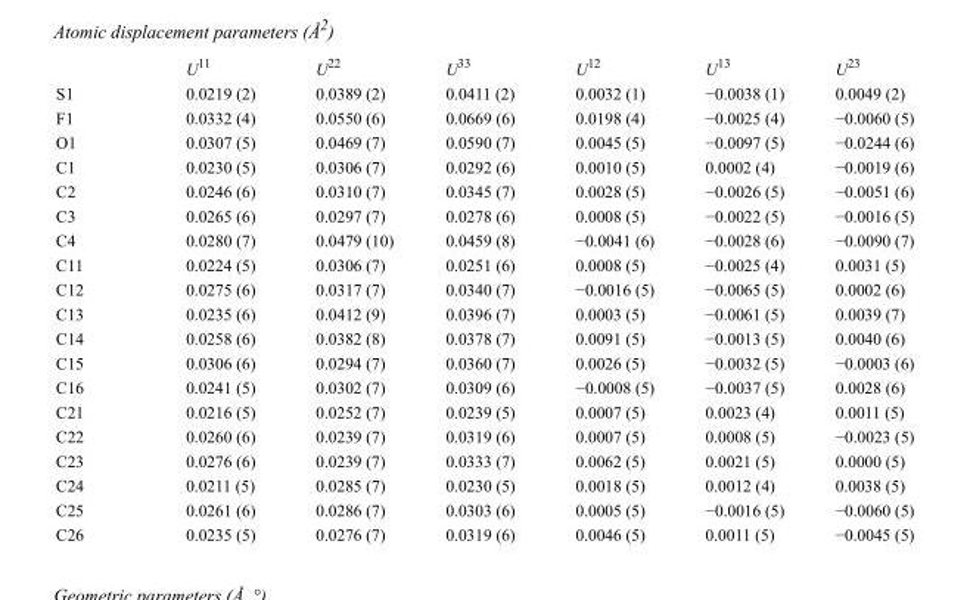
<table><thead><tr><td></td><td>U<sup>11</sup></td><td>U<sup>22</sup></td><td>U<sup>33</sup></td><td>U<sup>12</sup></td><td>U<sup>13</sup></td><td>U<sup>23</sup></td></tr></thead><tbody><tr><td>S1</td><td>0.0219 (2)</td><td>0.0389 (2)</td><td>0.0411 (2)</td><td>0.0032 (1)</td><td>−0.0038 (1)</td><td>0.0049 (2)</td></tr><tr><td>F1</td><td>0.0332 (4)</td><td>0.0550 (6)</td><td>0.0669 (6)</td><td>0.0198 (4)</td><td>−0.0025 (4)</td><td>−0.0060 (5)</td></tr><tr><td>O1</td><td>0.0307 (5)</td><td>0.0469 (7)</td><td>0.0590 (7)</td><td>0.0045 (5)</td><td>−0.0097 (5)</td><td>−0.0244 (6)</td></tr><tr><td>C1</td><td>0.0230 (5)</td><td>0.0306 (7)</td><td>0.0292 (6)</td><td>0.0010 (5)</td><td>0.0002 (4)</td><td>−0.0019 (6)</td></tr><tr><td>C2</td><td>0.0246 (6)</td><td>0.0310 (7)</td><td>0.0345 (7)</td><td>0.0028 (5)</td><td>−0.0026 (5)</td><td>−0.0051 (6)</td></tr><tr><td>C3</td><td>0.0265 (6)</td><td>0.0297 (7)</td><td>0.0278 (6)</td><td>0.0008 (5)</td><td>−0.0022 (5)</td><td>−0.0016 (5)</td></tr><tr><td>C4</td><td>0.0280 (7)</td><td>0.0479 (10)</td><td>0.0459 (8)</td><td>−0.0041 (6)</td><td>−0.0028 (6)</td><td>−0.0090 (7)</td></tr><tr><td>C11</td><td>0.0224 (5)</td><td>0.0306 (7)</td><td>0.0251 (6)</td><td>0.0008 (5)</td><td>−0.0025 (4)</td><td>0.0031 (5)</td></tr><tr><td>C12</td><td>0.0275 (6)</td><td>0.0317 (7)</td><td>0.0340 (7)</td><td>−0.0016 (5)</td><td>−0.0065 (5)</td><td>0.0002 (6)</td></tr><tr><td>C13</td><td>0.0235 (6)</td><td>0.0412 (9)</td><td>0.0396 (7)</td><td>0.0003 (5)</td><td>−0.0061 (5)</td><td>0.0039 (7)</td></tr><tr><td>C14</td><td>0.0258 (6)</td><td>0.0382 (8)</td><td>0.0378 (7)</td><td>0.0091 (5)</td><td>−0.0013 (5)</td><td>0.0040 (6)</td></tr><tr><td>C15</td><td>0.0306 (6)</td><td>0.0294 (7)</td><td>0.0360 (7)</td><td>0.0026 (5)</td><td>−0.0032 (5)</td><td>−0.0003 (6)</td></tr><tr><td>C16</td><td>0.0241 (5)</td><td>0.0302 (7)</td><td>0.0309 (6)</td><td>−0.0008 (5)</td><td>−0.0037 (5)</td><td>0.0028 (6)</td></tr><tr><td>C21</td><td>0.0216 (5)</td><td>0.0252 (7)</td><td>0.0239 (5)</td><td>0.0007 (5)</td><td>0.0023 (4)</td><td>0.0011 (5)</td></tr><tr><td>C22</td><td>0.0260 (6)</td><td>0.0239 (7)</td><td>0.0319 (6)</td><td>0.0007 (5)</td><td>0.0008 (5)</td><td>−0.0023 (5)</td></tr><tr><td>C23</td><td>0.0276 (6)</td><td>0.0239 (7)</td><td>0.0333 (7)</td><td>0.0062 (5)</td><td>0.0021 (5)</td><td>0.0000 (5)</td></tr><tr><td>C24</td><td>0.0211 (5)</td><td>0.0285 (7)</td><td>0.0230 (5)</td><td>0.0018 (5)</td><td>0.0012 (4)</td><td>0.0038 (5)</td></tr><tr><td>C25</td><td>0.0261 (6)</td><td>0.0286 (7)</td><td>0.0303 (6)</td><td>0.0005 (5)</td><td>−0.0016 (5)</td><td>−0.0060 (5)</td></tr><tr><td>C26</td><td>0.0235 (5)</td><td>0.0276 (7)</td><td>0.0319 (6)</td><td>0.0046 (5)</td><td>0.0011 (5)</td><td>−0.0045 (5)</td></tr></tbody></table>